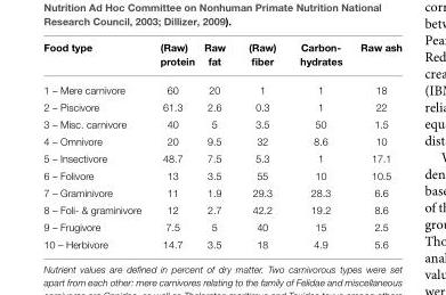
<table><thead><tr><td>Food type</td><td>(Raw) protein</td><td>Raw fat</td><td>(Raw) fiber</td><td>Carbon- hydrates</td><td>Raw ash</td></tr></thead><tbody><tr><td>1 – Mere carnivore</td><td>60</td><td>20</td><td>1</td><td>1</td><td>18</td></tr><tr><td>2 – Piscivore</td><td>61.3</td><td>2.6</td><td>0.3</td><td>1</td><td>22</td></tr><tr><td>3 – Misc. carnivore</td><td>40</td><td>5</td><td>3.5</td><td>50</td><td>1.5</td></tr><tr><td>4 – Omnivore</td><td>20</td><td>9.5</td><td>32</td><td>8.6</td><td>10</td></tr><tr><td>5 – Insectivore</td><td>48.7</td><td>7.5</td><td>5.3</td><td>1</td><td>17.1</td></tr><tr><td>6 – Folivore</td><td>13</td><td>3.5</td><td>55</td><td>10</td><td>10.5</td></tr><tr><td>7 – Graminivore</td><td>11</td><td>1.9</td><td>29.3</td><td>28.3</td><td>6.6</td></tr><tr><td>8 – Foli- &amp; graminivore</td><td>12</td><td>2.7</td><td>42.2</td><td>19.2</td><td>8.6</td></tr><tr><td>9 – Frugivore</td><td>7.5</td><td>5</td><td>40</td><td>15</td><td>2.5</td></tr><tr><td>10 – Herbivore</td><td>14.7</td><td>3.5</td><td>18</td><td>4.9</td><td>5.6</td></tr></tbody></table>